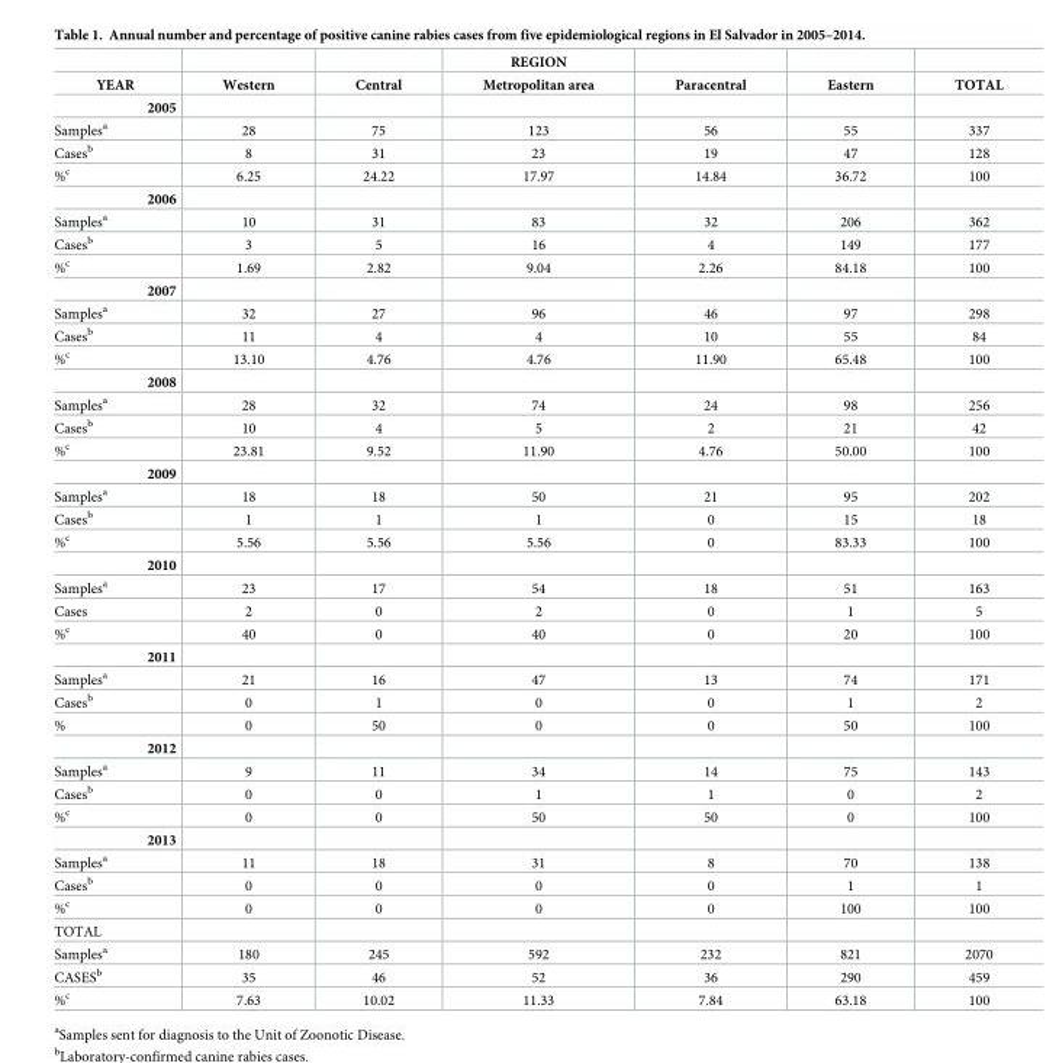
<table><thead><tr><td rowspan="2">YEAR</td><td rowspan="2">Western</td><td rowspan="2">Central</td><td rowspan="2">REGION Metropolitan area</td><td rowspan="2">Paracentral</td><td rowspan="2">Eastern</td><td rowspan="2">TOTAL</td></tr><tr></tr></thead><tbody><tr><td colspan="7">2005</td></tr><tr><td>Samples<sup>a</sup></td><td>28</td><td>75</td><td>123</td><td>56</td><td>55</td><td>337</td></tr><tr><td>Cases<sup>b</sup></td><td>8</td><td>31</td><td>23</td><td>19</td><td>47</td><td>128</td></tr><tr><td>%<sup>c</sup></td><td>6.25</td><td>24.22</td><td>17.97</td><td>14.84</td><td>36.72</td><td>100</td></tr><tr><td colspan="7">2006</td></tr><tr><td>Samples<sup>a</sup></td><td>10</td><td>31</td><td>83</td><td>32</td><td>206</td><td>362</td></tr><tr><td>Cases<sup>b</sup></td><td>3</td><td>5</td><td>16</td><td>4</td><td>149</td><td>177</td></tr><tr><td>%<sup>c</sup></td><td>1.69</td><td>2.82</td><td>9.04</td><td>2.26</td><td>84.18</td><td>100</td></tr><tr><td colspan="7">2007</td></tr><tr><td>Samples<sup>a</sup></td><td>32</td><td>27</td><td>96</td><td>46</td><td>97</td><td>298</td></tr><tr><td>Cases<sup>b</sup></td><td>11</td><td>4</td><td>4</td><td>10</td><td>55</td><td>84</td></tr><tr><td>%<sup>c</sup></td><td>13.10</td><td>4.76</td><td>4.76</td><td>11.90</td><td>65.48</td><td>100</td></tr><tr><td colspan="7">2008</td></tr><tr><td>Samples<sup>a</sup></td><td>28</td><td>32</td><td>74</td><td>24</td><td>98</td><td>256</td></tr><tr><td>Cases<sup>b</sup></td><td>10</td><td>4</td><td>5</td><td>2</td><td>21</td><td>42</td></tr><tr><td>%<sup>c</sup></td><td>23.81</td><td>9.52</td><td>11.90</td><td>4.76</td><td>50.00</td><td>100</td></tr><tr><td colspan="7">2009</td></tr><tr><td>Samples<sup>a</sup></td><td>18</td><td>18</td><td>50</td><td>21</td><td>95</td><td>202</td></tr><tr><td>Cases<sup>b</sup></td><td>1</td><td>1</td><td>1</td><td>0</td><td>15</td><td>18</td></tr><tr><td>%<sup>c</sup></td><td>5.56</td><td>5.56</td><td>5.56</td><td>0</td><td>83.33</td><td>100</td></tr><tr><td colspan="7">2010</td></tr><tr><td>Samples<sup>a</sup></td><td>23</td><td>17</td><td>54</td><td>18</td><td>51</td><td>163</td></tr><tr><td>Cases</td><td>2</td><td>0</td><td>2</td><td>0</td><td>1</td><td>5</td></tr><tr><td>%<sup>c</sup></td><td>40</td><td>0</td><td>40</td><td>0</td><td>20</td><td>100</td></tr><tr><td colspan="7">2011</td></tr><tr><td>Samples<sup>a</sup></td><td>21</td><td>16</td><td>47</td><td>13</td><td>74</td><td>171</td></tr><tr><td>Cases<sup>b</sup></td><td>0</td><td>1</td><td>0</td><td>0</td><td>1</td><td>2</td></tr><tr><td>%</td><td>0</td><td>50</td><td>0</td><td>0</td><td>50</td><td>100</td></tr><tr><td colspan="7">2012</td></tr><tr><td>Samples<sup>a</sup></td><td>9</td><td>11</td><td>34</td><td>14</td><td>75</td><td>143</td></tr><tr><td>Cases<sup>b</sup></td><td>0</td><td>0</td><td>1</td><td>1</td><td>0</td><td>2</td></tr><tr><td>%<sup>c</sup></td><td>0</td><td>0</td><td>50</td><td>50</td><td>0</td><td>100</td></tr><tr><td colspan="7">2013</td></tr><tr><td>Samples<sup>a</sup></td><td>11</td><td>18</td><td>31</td><td>8</td><td>70</td><td>138</td></tr><tr><td>Cases<sup>b</sup></td><td>0</td><td>0</td><td>0</td><td>0</td><td>1</td><td>1</td></tr><tr><td>%<sup>c</sup></td><td>0</td><td>0</td><td>0</td><td>0</td><td>100</td><td>100</td></tr><tr><td colspan="7">TOTAL</td></tr><tr><td>Samples<sup>a</sup></td><td>180</td><td>245</td><td>592</td><td>232</td><td>821</td><td>2070</td></tr><tr><td>CASES<sup>b</sup></td><td>35</td><td>46</td><td>52</td><td>36</td><td>290</td><td>459</td></tr><tr><td>%<sup>c</sup></td><td>7.63</td><td>10.02</td><td>11.33</td><td>7.84</td><td>63.18</td><td>100</td></tr></tbody></table>